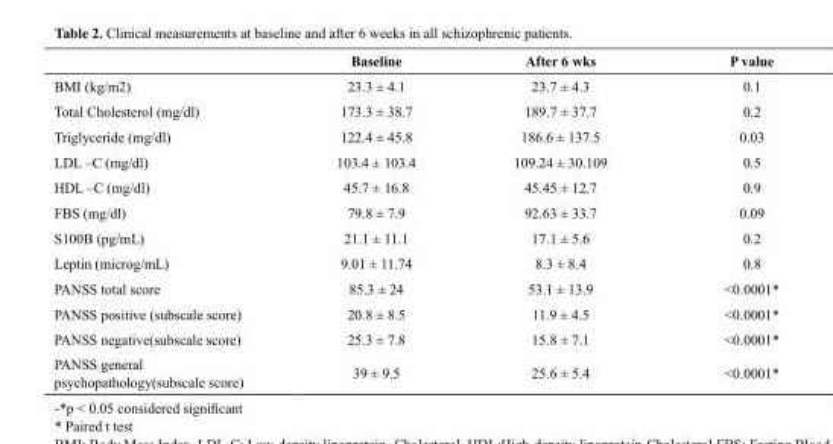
<table><thead><tr><td></td><td>Baseline</td><td>After 6 wks</td><td>P value</td></tr></thead><tbody><tr><td>BMI (kg/m2)</td><td>23.3 ± 4.1</td><td>23.7 ± 4.3</td><td>0.1</td></tr><tr><td>Total Cholesterol (mg/dl)</td><td>173.3 ± 38.7</td><td>189.7 ± 37.7</td><td>0.2</td></tr><tr><td>Triglyceride (mg/dl)</td><td>122.4 ± 45.8</td><td>186.6 ± 137.5</td><td>0.03</td></tr><tr><td>LDL –C (mg/dl)</td><td>103.4 ± 103.4</td><td>109.24 ± 30.109</td><td>0.5</td></tr><tr><td>HDL –C (mg/dl)</td><td>45.7 ± 16.8</td><td>45.45 ± 12.7</td><td>0.9</td></tr><tr><td>FBS (mg/dl)</td><td>79.8 ± 7.9</td><td>92.63 ± 33.7</td><td>0.09</td></tr><tr><td>S100B (pg/mL)</td><td>21.1 ± 11.1</td><td>17.1 ± 5.6</td><td>0.2</td></tr><tr><td>Leptin (microg/mL)</td><td>9.01 ± 11.74</td><td>8.3 ± 8.4</td><td>0.8</td></tr><tr><td>PANSS total score</td><td>85.3 ± 24</td><td>53.1 ± 13.9</td><td>&lt;0.0001*</td></tr><tr><td>PANSS positive (subscale score)</td><td>20.8 ± 8.5</td><td>11.9 ± 4.5</td><td>&lt;0.0001*</td></tr><tr><td>PANSS negative(subscale score)</td><td>25.3 ± 7.8</td><td>15.8 ± 7.1</td><td>&lt;0.0001*</td></tr><tr><td>PANSS general psychopathology(subscale score)</td><td>39 ± 9.5</td><td>25.6 ± 5.4</td><td>&lt;0.0001*</td></tr></tbody></table>